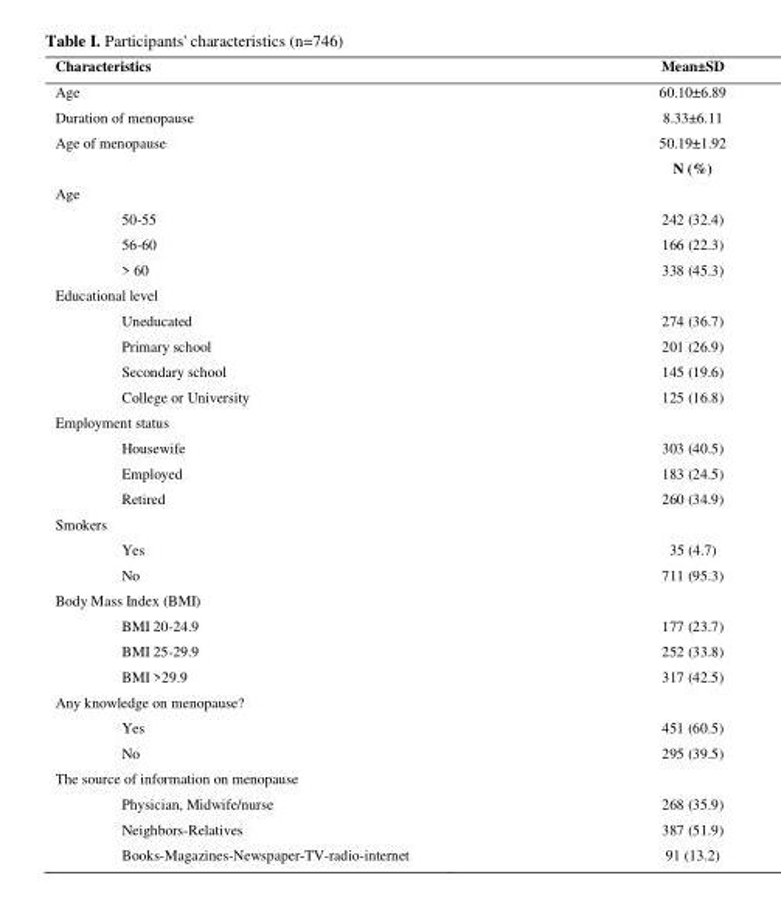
<table><thead><tr><td>Characteristics</td><td>Mean±SD</td></tr></thead><tbody><tr><td>Age</td><td>60.10±6.89</td></tr><tr><td>Duration of menopause</td><td>8.33±6.11</td></tr><tr><td rowspan="2">Age of menopause</td><td>50.19±1.92</td></tr><tr><td>N (%)</td></tr><tr><td colspan="2">Age</td></tr><tr><td>50-55</td><td>242 (32.4)</td></tr><tr><td>56-60</td><td>166 (22.3)</td></tr><tr><td>&gt; 60</td><td>338 (45.3)</td></tr><tr><td colspan="2">Educational level</td></tr><tr><td>Uneducated</td><td>274 (36.7)</td></tr><tr><td>Primary school</td><td>201 (26.9)</td></tr><tr><td>Secondary school</td><td>145 (19.6)</td></tr><tr><td>College or University</td><td>125 (16.8)</td></tr><tr><td colspan="2">Employment status</td></tr><tr><td>Housewife</td><td>303 (40.5)</td></tr><tr><td>Employed</td><td>183 (24.5)</td></tr><tr><td>Retired</td><td>260 (34.9)</td></tr><tr><td colspan="2">Smokers</td></tr><tr><td>Yes</td><td>35 (4.7)</td></tr><tr><td>No</td><td>711 (95.3)</td></tr><tr><td colspan="2">Body Mass Index (BMI)</td></tr><tr><td>BMI 20-24.9</td><td>177 (23.7)</td></tr><tr><td>BMI 25-29.9</td><td>252 (33.8)</td></tr><tr><td>BMI &gt;29.9</td><td>317 (42.5)</td></tr><tr><td colspan="2">Any knowledge on menopause?</td></tr><tr><td>Yes</td><td>451 (60.5)</td></tr><tr><td>No</td><td>295 (39.5)</td></tr><tr><td colspan="2">The source of information on menopause</td></tr><tr><td>Physician, Midwife/nurse</td><td>268 (35.9)</td></tr><tr><td>Neighbors-Relatives</td><td>387 (51.9)</td></tr><tr><td>Books-Magazines-Newspaper-TV-radio-internet</td><td>91 (13.2)</td></tr></tbody></table>